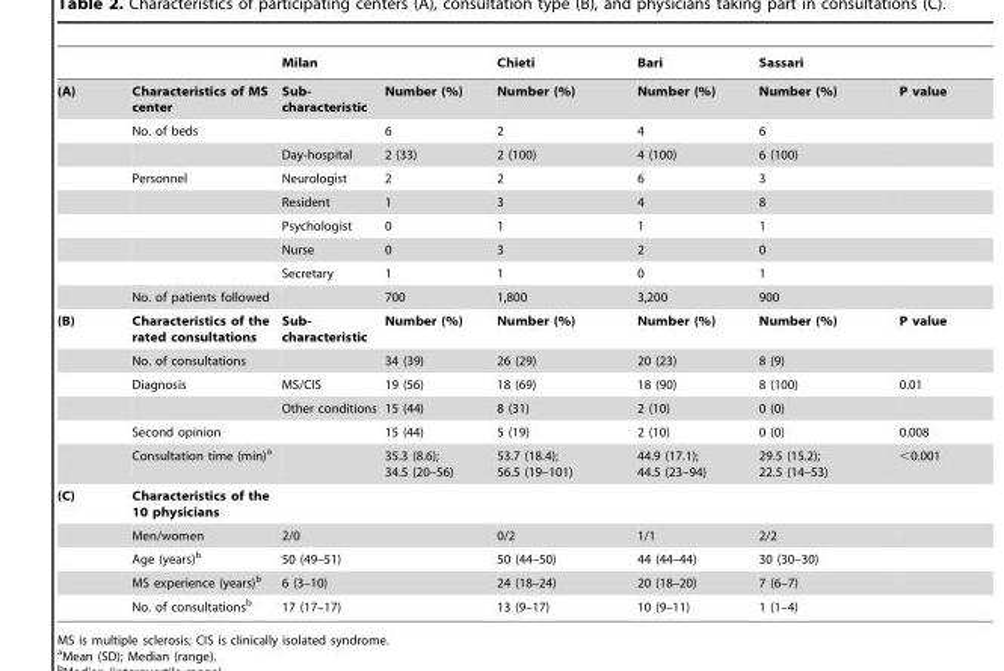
<table><thead><tr><td rowspan="2">(A)</td><td rowspan="2">Characteristics of MS center</td><td colspan="2">Milan</td><td rowspan="2">Chieti Number (%)</td><td rowspan="2">Bari Number (%)</td><td rowspan="2">Sassari Number (%)</td><td rowspan="2">P value</td></tr><tr><td>Sub- characteristic</td><td>Number (%)</td></tr></thead><tbody><tr><td></td><td>No. of beds</td><td></td><td>6</td><td>2</td><td>4</td><td>6</td><td></td></tr><tr><td></td><td></td><td>Day-hospital</td><td>2 (33)</td><td>2 (100)</td><td>4 (100)</td><td>6 (100)</td><td></td></tr><tr><td></td><td>Personnel</td><td>Neurologist</td><td>2</td><td>2</td><td>6</td><td>3</td><td></td></tr><tr><td></td><td></td><td>Resident</td><td>1</td><td>3</td><td>4</td><td>8</td><td></td></tr><tr><td></td><td></td><td>Psychologist</td><td>0</td><td>1</td><td>1</td><td>1</td><td></td></tr><tr><td></td><td></td><td>Nurse</td><td>0</td><td>3</td><td>2</td><td>0</td><td></td></tr><tr><td></td><td></td><td>Secretary</td><td>1</td><td>1</td><td>0</td><td>1</td><td></td></tr><tr><td></td><td>No. of patients followed</td><td></td><td>700</td><td>1,800</td><td>3,200</td><td>900</td><td></td></tr><tr><td rowspan="6">(B)</td><td>Characteristics of the rated consultations</td><td>Sub- characteristic</td><td>Number (%)</td><td>Number (%)</td><td>Number (%)</td><td>Number (%)</td><td>P value</td></tr><tr><td>No. of consultations</td><td></td><td>34 (39)</td><td>26 (29)</td><td>20 (23)</td><td>8 (9)</td><td></td></tr><tr><td>Diagnosis</td><td>MS/CIS</td><td>19 (56)</td><td>18 (69)</td><td>18 (90)</td><td>8 (100)</td><td>0.01</td></tr><tr><td></td><td>Other conditions</td><td>15 (44)</td><td>8 (31)</td><td>2 (10)</td><td>0 (0)</td><td></td></tr><tr><td>Second opinion</td><td></td><td>15 (44)</td><td>5 (19)</td><td>2 (10)</td><td>0 (0)</td><td>0.008</td></tr><tr><td>Consultation time (min)<sup>a</sup></td><td></td><td>35.3 (8.6); 34.5 (20–56)</td><td>53.7 (18.4); 56.5 (19–101)</td><td>44.9 (17.1); 44.5 (23–94)</td><td>29.5 (15.2); 22.5 (14–53)</td><td>&lt;0.001</td></tr><tr><td rowspan="5">(C)</td><td>Characteristics of the 10 physicians</td><td></td><td></td><td></td><td></td><td></td><td></td></tr><tr><td>Men/women</td><td colspan="2">2/0</td><td>0/2</td><td>1/1</td><td>2/2</td><td></td></tr><tr><td>Age (years)<sup>b</sup></td><td colspan="2">50 (49–51)</td><td>50 (44–50)</td><td>44 (44–44)</td><td>30 (30–30)</td><td></td></tr><tr><td>MS experience (years)<sup>b</sup></td><td colspan="2">6 (3–10)</td><td>24 (18–24)</td><td>20 (18–20)</td><td>7 (6–7)</td><td></td></tr><tr><td>No. of consultations<sup>b</sup></td><td colspan="2">17 (17–17)</td><td>13 (9–17)</td><td>10 (9–11)</td><td>1 (1–4)</td><td></td></tr></tbody></table>